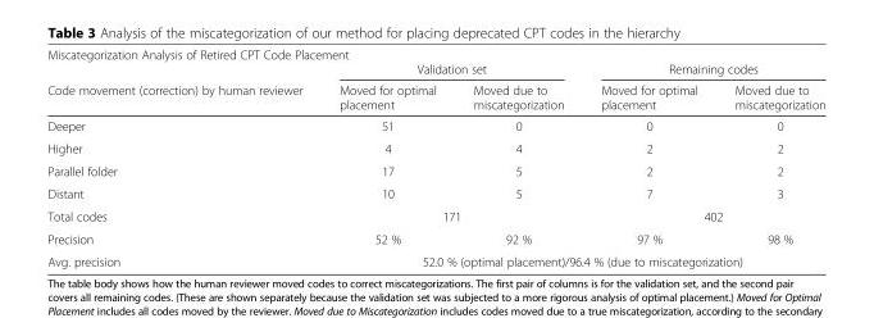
<table><thead><tr><td colspan="5">Miscategorization Analysis of Retired CPT Code Placement</td></tr><tr><td rowspan="2">Code movement (correction) by human reviewer</td><td colspan="2">Validation set</td><td colspan="2">Remaining codes</td></tr><tr><td>Moved for optimal placement</td><td>Moved due to miscategorization</td><td>Moved for optimal placement</td><td>Moved due to miscategorization</td></tr></thead><tbody><tr><td>Deeper</td><td>51</td><td>0</td><td>0</td><td>0</td></tr><tr><td>Higher</td><td>4</td><td>4</td><td>2</td><td>2</td></tr><tr><td>Parallel folder</td><td>17</td><td>5</td><td>2</td><td>2</td></tr><tr><td>Distant</td><td>10</td><td>5</td><td>7</td><td>3</td></tr><tr><td>Total codes</td><td colspan="2">171</td><td colspan="2">402</td></tr><tr><td>Precision</td><td>52 %</td><td>92 %</td><td>97 %</td><td>98 %</td></tr><tr><td>Avg. precision</td><td colspan="4">52.0 % (optimal placement)/96.4 % (due to miscategorization)</td></tr></tbody></table>